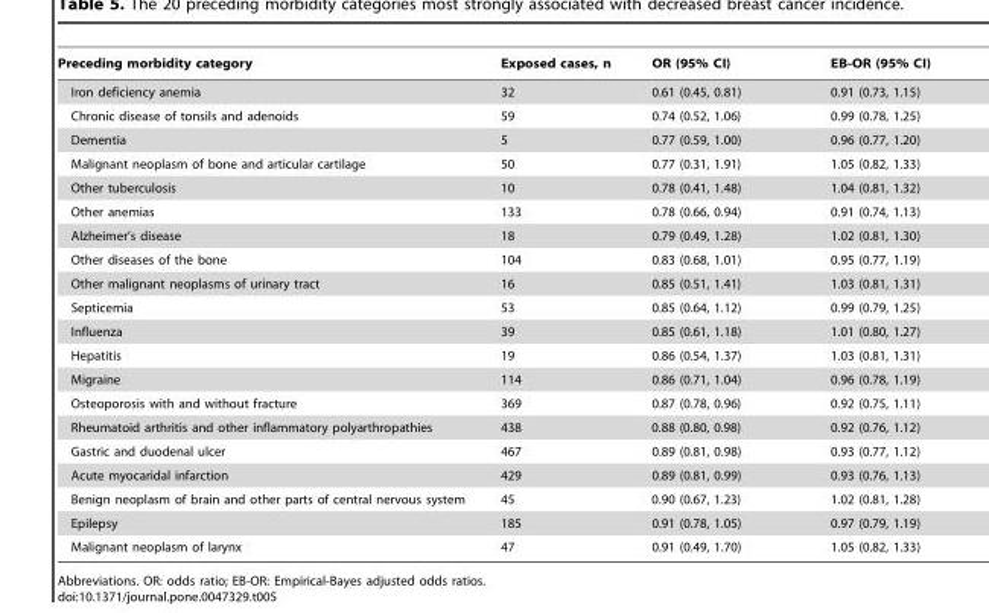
<table><thead><tr><td>Preceding morbidity category</td><td>Exposed cases, n</td><td>OR (95% CI)</td><td>EB-OR (95% CI)</td></tr></thead><tbody><tr><td>Iron deficiency anemia</td><td>32</td><td>0.61 (0.45, 0.81)</td><td>0.91 (0.73, 1.15)</td></tr><tr><td>Chronic disease of tonsils and adenoids</td><td>59</td><td>0.74 (0.52, 1.06)</td><td>0.99 (0.78, 1.25)</td></tr><tr><td>Dementia</td><td>5</td><td>0.77 (0.59, 1.00)</td><td>0.96 (0.77, 1.20)</td></tr><tr><td>Malignant neoplasm of bone and articular cartilage</td><td>50</td><td>0.77 (0.31, 1.91)</td><td>1.05 (0.82, 1.33)</td></tr><tr><td>Other tuberculosis</td><td>10</td><td>0.78 (0.41, 1.48)</td><td>1.04 (0.81, 1.32)</td></tr><tr><td>Other anemias</td><td>133</td><td>0.78 (0.66, 0.94)</td><td>0.91 (0.74, 1.13)</td></tr><tr><td>Alzheimer’s disease</td><td>18</td><td>0.79 (0.49, 1.28)</td><td>1.02 (0.81, 1.30)</td></tr><tr><td>Other diseases of the bone</td><td>104</td><td>0.83 (0.68, 1.01)</td><td>0.95 (0.77, 1.19)</td></tr><tr><td>Other malignant neoplasms of urinary tract</td><td>16</td><td>0.85 (0.51, 1.41)</td><td>1.03 (0.81, 1.31)</td></tr><tr><td>Septicemia</td><td>53</td><td>0.85 (0.64, 1.12)</td><td>0.99 (0.79, 1.25)</td></tr><tr><td>Influenza</td><td>39</td><td>0.85 (0.61, 1.18)</td><td>1.01 (0.80, 1.27)</td></tr><tr><td>Hepatitis</td><td>19</td><td>0.86 (0.54, 1.37)</td><td>1.03 (0.81, 1.31)</td></tr><tr><td>Migraine</td><td>114</td><td>0.86 (0.71, 1.04)</td><td>0.96 (0.78, 1.19)</td></tr><tr><td>Osteoporosis with and without fracture</td><td>369</td><td>0.87 (0.78, 0.96)</td><td>0.92 (0.75, 1.11)</td></tr><tr><td>Rheumatoid arthritis and other inflammatory polyarthropathies</td><td>438</td><td>0.88 (0.80, 0.98)</td><td>0.92 (0.76, 1.12)</td></tr><tr><td>Gastric and duodenal ulcer</td><td>467</td><td>0.89 (0.81, 0.98)</td><td>0.93 (0.77, 1.12)</td></tr><tr><td>Acute myocaridal infarction</td><td>429</td><td>0.89 (0.81, 0.99)</td><td>0.93 (0.76, 1.13)</td></tr><tr><td>Benign neoplasm of brain and other parts of central nervous system</td><td>45</td><td>0.90 (0.67, 1.23)</td><td>1.02 (0.81, 1.28)</td></tr><tr><td>Epilepsy</td><td>185</td><td>0.91 (0.78, 1.05)</td><td>0.97 (0.79, 1.19)</td></tr><tr><td>Malignant neoplasm of larynx</td><td>47</td><td>0.91 (0.49, 1.70)</td><td>1.05 (0.82, 1.33)</td></tr></tbody></table>